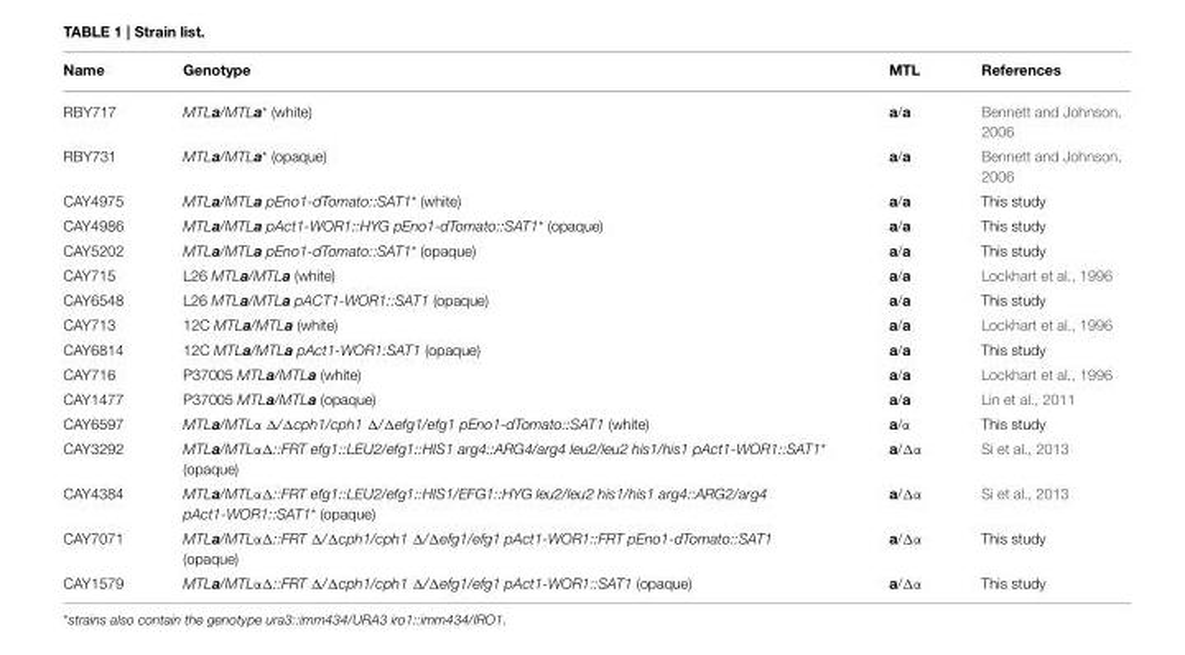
<table><thead><tr><td>Name</td><td>Genotype</td><td>MTL</td><td>References</td></tr></thead><tbody><tr><td>RBY717</td><td>MTLa/MTLa* (white)</td><td>a/a</td><td>Bennett and Johnson, 2006</td></tr><tr><td>RBY731</td><td>MTLa/MTLa* (opaque)</td><td>a/a</td><td>Bennett and Johnson, 2006</td></tr><tr><td>CAY4975</td><td>MTLa/MTLa pEno1-dTomato::SAT1* (white)</td><td>a/a</td><td>This study</td></tr><tr><td>CAY4986</td><td>MTLa/MTLa pAct1-WOR1::HYG pEno1-dTomato::SAT1* (opaque)</td><td>a/a</td><td>This study</td></tr><tr><td>CAY5202</td><td>MTLa/MTLa pEno1-dTomato::SAT1* (opaque)</td><td>a/a</td><td>This study</td></tr><tr><td>CAY715</td><td>L26 MTLa/MTLa (white)</td><td>a/a</td><td>Lockhart et al., 1996</td></tr><tr><td>CAY6548</td><td>L26 MTLa/MTLa pACT1-WOR1::SAT1 (opaque)</td><td>a/a</td><td>This study</td></tr><tr><td>CAY713</td><td>12C MTLa/MTLa (white)</td><td>a/a</td><td>Lockhart et al., 1996</td></tr><tr><td>CAY6814</td><td>12C MTLa/MTLa pAct1-WOR1:SAT1 (opaque)</td><td>a/a</td><td>This study</td></tr><tr><td>CAY716</td><td>P37005 MTLa/MTLa (white)</td><td>a/a</td><td>Lockhart et al., 1996</td></tr><tr><td>CAY1477</td><td>P37005 MTLa/MTLa (opaque)</td><td>a/a</td><td>Lin et al., 2011</td></tr><tr><td>CAY6597</td><td>MTLa/MTLα Δ/Δcph1/cph1 Δ/Δefg1/efg1 pEno1-dTomato::SAT1 (white)</td><td>a/α</td><td>This study</td></tr><tr><td>CAY3292</td><td>MTLa/MTLαΔ::FRT efg1::LEU2/efg1::HIS1 arg4::ARG4/arg4 leu2/leu2 his1/his1 pAct1-WOR1::SAT1* (opaque)</td><td>a/Δα</td><td>Si et al., 2013</td></tr><tr><td>CAY4384</td><td>MTLa/MTLαΔ::FRT efg1::LEU2/efg1::HIS1/EFG1::HYG leu2/leu2 his1/his1 arg4::ARG2/arg4 pAct1-WOR1::SAT1* (opaque)</td><td>a/Δα</td><td>Si et al., 2013</td></tr><tr><td>CAY7071</td><td>MTLa/MTLαΔ::FRT Δ/Δcph1/cph1 Δ/Δefg1/efg1 pAct1-WOR1::FRT pEno1-dTomato::SAT1 (opaque)</td><td>a/Δα</td><td>This study</td></tr><tr><td>CAY1579</td><td>MTLa/MTLαΔ::FRT Δ/Δcph1/cph1 Δ/Δefg1/efg1 pAct1-WOR1::SAT1 (opaque)</td><td>a/Δα</td><td>This study</td></tr></tbody></table>